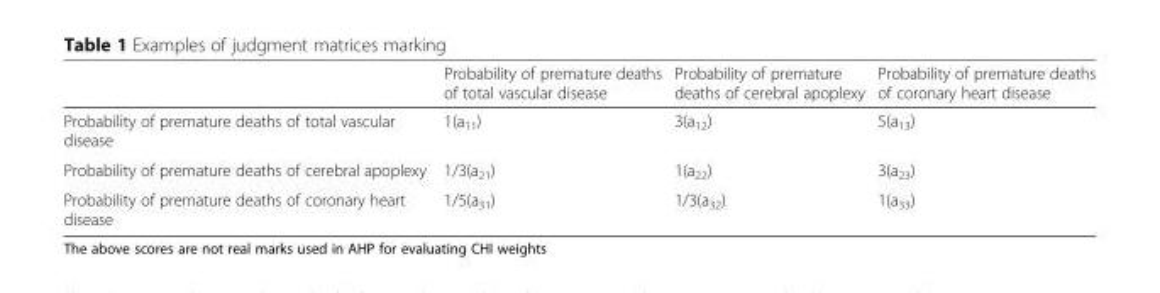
<table><thead><tr><td></td><td>Probability of premature deaths of total vascular disease</td><td>Probability of premature deaths of cerebral apoplexy</td><td>Probability of premature deaths of coronary heart disease</td></tr></thead><tbody><tr><td>Probability of premature deaths of total vascular disease</td><td>1(a<sub>11</sub>)</td><td>3(a<sub>12</sub>)</td><td>5(a<sub>13</sub>)</td></tr><tr><td>Probability of premature deaths of cerebral apoplexy</td><td>1/3(a<sub>21</sub>)</td><td>1(a<sub>22</sub>)</td><td>3(a<sub>23</sub>)</td></tr><tr><td>Probability of premature deaths of coronary heart disease</td><td>1/5(a<sub>31</sub>)</td><td>1/3(a<sub>32</sub>)</td><td>1(a<sub>33</sub>)</td></tr></tbody></table>